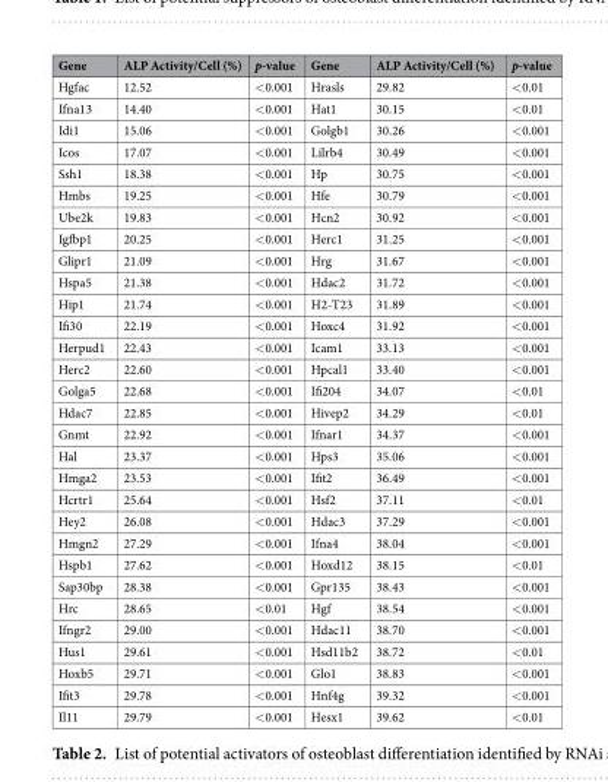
<table><thead><tr><td>Gene</td><td>ALP Activity/Cell (%)</td><td>p-value</td><td>Gene</td><td>ALP Activity/Cell (%)</td><td>p-value</td></tr></thead><tbody><tr><td>Hgfac</td><td>12.52</td><td>&lt;0.001</td><td>Hrasls</td><td>29.82</td><td>&lt;0.01</td></tr><tr><td>Ifna13</td><td>14.40</td><td>&lt;0.001</td><td>Hat1</td><td>30.15</td><td>&lt;0.01</td></tr><tr><td>Idi1</td><td>15.06</td><td>&lt;0.001</td><td>Golgb1</td><td>30.26</td><td>&lt;0.001</td></tr><tr><td>Icos</td><td>17.07</td><td>&lt;0.001</td><td>Lilrb4</td><td>30.49</td><td>&lt;0.001</td></tr><tr><td>Ssh1</td><td>18.38</td><td>&lt;0.001</td><td>Hp</td><td>30.75</td><td>&lt;0.001</td></tr><tr><td>Hmbs</td><td>19.25</td><td>&lt;0.001</td><td>Hfe</td><td>30.79</td><td>&lt;0.001</td></tr><tr><td>Ube2k</td><td>19.83</td><td>&lt;0.001</td><td>Hcn2</td><td>30.92</td><td>&lt;0.001</td></tr><tr><td>Igfbp1</td><td>20.25</td><td>&lt;0.001</td><td>Herc1</td><td>31.25</td><td>&lt;0.001</td></tr><tr><td>Glipr1</td><td>21.09</td><td>&lt;0.001</td><td>Hrg</td><td>31.67</td><td>&lt;0.001</td></tr><tr><td>Hspa5</td><td>21.38</td><td>&lt;0.001</td><td>Hdac2</td><td>31.72</td><td>&lt;0.001</td></tr><tr><td>Hip1</td><td>21.74</td><td>&lt;0.001</td><td>H2-T23</td><td>31.89</td><td>&lt;0.001</td></tr><tr><td>Ifi30</td><td>22.19</td><td>&lt;0.001</td><td>Hoxc4</td><td>31.92</td><td>&lt;0.001</td></tr><tr><td>Herpud1</td><td>22.43</td><td>&lt;0.001</td><td>Icam1</td><td>33.13</td><td>&lt;0.001</td></tr><tr><td>Herc2</td><td>22.60</td><td>&lt;0.001</td><td>Hpcal1</td><td>33.40</td><td>&lt;0.001</td></tr><tr><td>Golga5</td><td>22.68</td><td>&lt;0.001</td><td>Ifi204</td><td>34.07</td><td>&lt;0.01</td></tr><tr><td>Hdac7</td><td>22.85</td><td>&lt;0.001</td><td>Hivep2</td><td>34.29</td><td>&lt;0.01</td></tr><tr><td>Gnmt</td><td>22.92</td><td>&lt;0.001</td><td>Ifnar1</td><td>34.37</td><td>&lt;0.001</td></tr><tr><td>Hal</td><td>23.37</td><td>&lt;0.001</td><td>Hps3</td><td>35.06</td><td>&lt;0.001</td></tr><tr><td>Hmga2</td><td>23.53</td><td>&lt;0.001</td><td>Ifit2</td><td>36.49</td><td>&lt;0.001</td></tr><tr><td>Hcrtr1</td><td>25.64</td><td>&lt;0.001</td><td>Hsf2</td><td>37.11</td><td>&lt;0.01</td></tr><tr><td>Hey2</td><td>26.08</td><td>&lt;0.001</td><td>Hdac3</td><td>37.29</td><td>&lt;0.001</td></tr><tr><td>Hmgn2</td><td>27.29</td><td>&lt;0.001</td><td>Ifna4</td><td>38.04</td><td>&lt;0.001</td></tr><tr><td>Hspb1</td><td>27.62</td><td>&lt;0.001</td><td>Hoxd12</td><td>38.15</td><td>&lt;0.01</td></tr><tr><td>Sap30bp</td><td>28.38</td><td>&lt;0.001</td><td>Gpr135</td><td>38.43</td><td>&lt;0.001</td></tr><tr><td>Hrc</td><td>28.65</td><td>&lt;0.01</td><td>Hgf</td><td>38.54</td><td>&lt;0.001</td></tr><tr><td>Ifngr2</td><td>29.00</td><td>&lt;0.001</td><td>Hdac11</td><td>38.70</td><td>&lt;0.001</td></tr><tr><td>Hus1</td><td>29.61</td><td>&lt;0.001</td><td>Hsd11b2</td><td>38.72</td><td>&lt;0.01</td></tr><tr><td>Hoxb5</td><td>29.71</td><td>&lt;0.001</td><td>Glo1</td><td>38.83</td><td>&lt;0.001</td></tr><tr><td>Ifit3</td><td>29.78</td><td>&lt;0.001</td><td>Hnf4g</td><td>39.32</td><td>&lt;0.001</td></tr><tr><td>Il11</td><td>29.79</td><td>&lt;0.001</td><td>Hesx1</td><td>39.62</td><td>&lt;0.01</td></tr></tbody></table>